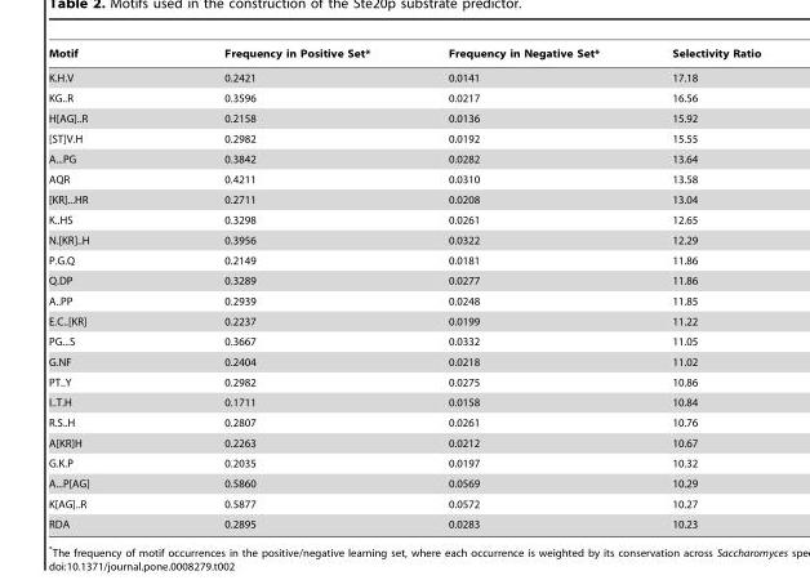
<table><thead><tr><td>Motif</td><td>Frequency in Positive Set*</td><td>Frequency in Negative Set*</td><td>Selectivity Ratio</td></tr></thead><tbody><tr><td>K.H.V</td><td>0.2421</td><td>0.0141</td><td>17.18</td></tr><tr><td>KG..R</td><td>0.3596</td><td>0.0217</td><td>16.56</td></tr><tr><td>H[AG]..R</td><td>0.2158</td><td>0.0136</td><td>15.92</td></tr><tr><td>[ST]V.H</td><td>0.2982</td><td>0.0192</td><td>15.55</td></tr><tr><td>A...PG</td><td>0.3842</td><td>0.0282</td><td>13.64</td></tr><tr><td>AQR</td><td>0.4211</td><td>0.0310</td><td>13.58</td></tr><tr><td>[KR]...HR</td><td>0.2711</td><td>0.0208</td><td>13.04</td></tr><tr><td>K..HS</td><td>0.3298</td><td>0.0261</td><td>12.65</td></tr><tr><td>N.[KR]..H</td><td>0.3956</td><td>0.0322</td><td>12.29</td></tr><tr><td>P.G.Q</td><td>0.2149</td><td>0.0181</td><td>11.86</td></tr><tr><td>Q.DP</td><td>0.3289</td><td>0.0277</td><td>11.86</td></tr><tr><td>A..PP</td><td>0.2939</td><td>0.0248</td><td>11.85</td></tr><tr><td>E.C..[KR]</td><td>0.2237</td><td>0.0199</td><td>11.22</td></tr><tr><td>PG...S</td><td>0.3667</td><td>0.0332</td><td>11.05</td></tr><tr><td>G.NF</td><td>0.2404</td><td>0.0218</td><td>11.02</td></tr><tr><td>PT..Y</td><td>0.2982</td><td>0.0275</td><td>10.86</td></tr><tr><td>I..T.H</td><td>0.1711</td><td>0.0158</td><td>10.84</td></tr><tr><td>R.S..H</td><td>0.2807</td><td>0.0261</td><td>10.76</td></tr><tr><td>A[KR]H</td><td>0.2263</td><td>0.0212</td><td>10.67</td></tr><tr><td>G.K.P</td><td>0.2035</td><td>0.0197</td><td>10.32</td></tr><tr><td>A...P[AG]</td><td>0.5860</td><td>0.0569</td><td>10.29</td></tr><tr><td>K[AG]..R</td><td>0.5877</td><td>0.0572</td><td>10.27</td></tr><tr><td>RDA</td><td>0.2895</td><td>0.0283</td><td>10.23</td></tr></tbody></table>